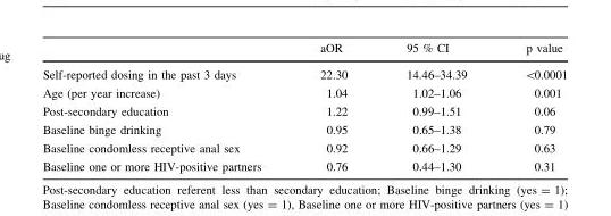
<table><thead><tr><td></td><td>aOR</td><td>95 % CI</td><td>p value</td></tr></thead><tbody><tr><td>Self-reported dosing in the past 3 days</td><td>22.30</td><td>14.46–34.39</td><td>&lt;0.0001</td></tr><tr><td>Age (per year increase)</td><td>1.04</td><td>1.02–1.06</td><td>0.001</td></tr><tr><td>Post-secondary education</td><td>1.22</td><td>0.99–1.51</td><td>0.06</td></tr><tr><td>Baseline binge drinking</td><td>0.95</td><td>0.65–1.38</td><td>0.79</td></tr><tr><td>Baseline condomless receptive anal sex</td><td>0.92</td><td>0.66–1.29</td><td>0.63</td></tr><tr><td>Baseline one or more HIV-positive partners</td><td>0.76</td><td>0.44–1.30</td><td>0.31</td></tr></tbody></table>